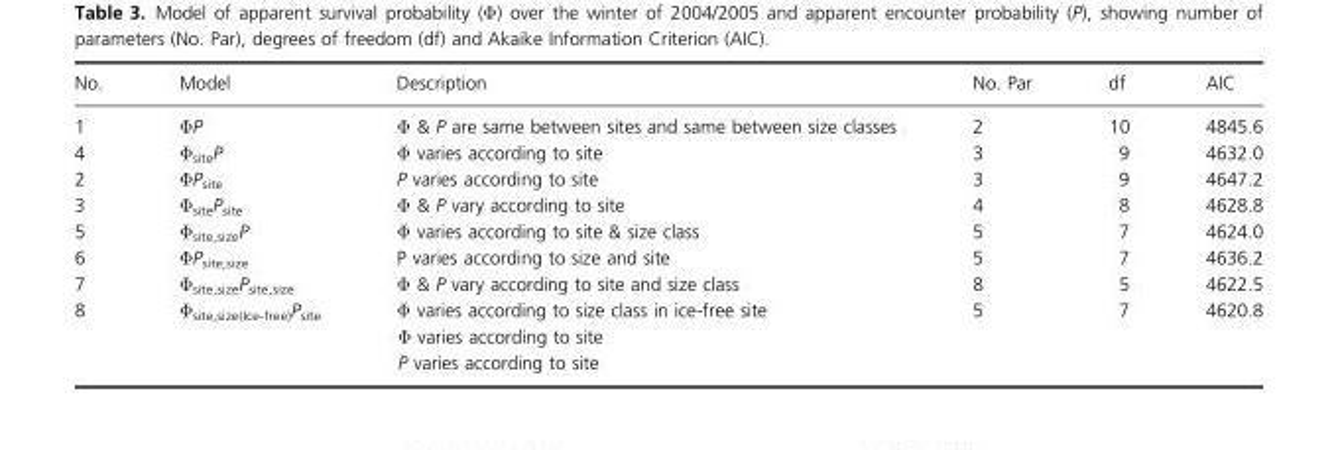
<table><thead><tr><td>No.</td><td>Model</td><td>Description</td><td>No. Par</td><td>df</td><td>AIC</td></tr></thead><tbody><tr><td>1</td><td>ΦP</td><td>Φ &amp; P are same between sites and same between size classes</td><td>2</td><td>10</td><td>4845.6</td></tr><tr><td>4</td><td>Φ<sub>site</sub>P</td><td>Φ varies according to site</td><td>3</td><td>9</td><td>4632.0</td></tr><tr><td>2</td><td>ΦP<sub>site</sub></td><td>P varies according to site</td><td>3</td><td>9</td><td>4647.2</td></tr><tr><td>3</td><td>Φ<sub>site</sub>P<sub>site</sub></td><td>Φ &amp; P vary according to site</td><td>4</td><td>8</td><td>4628.8</td></tr><tr><td>5</td><td>Φ<sub>site,size</sub>P</td><td>Φ varies according to site &amp; size class</td><td>5</td><td>7</td><td>4624.0</td></tr><tr><td>6</td><td>ΦP<sub>site,size</sub></td><td>P varies according to size and site</td><td>5</td><td>7</td><td>4636.2</td></tr><tr><td>7</td><td>Φ<sub>site,size</sub>P<sub>site,size</sub></td><td>Φ &amp; P vary according to site and size class</td><td>8</td><td>5</td><td>4622.5</td></tr><tr><td rowspan="3">8</td><td>Φ<sub>site,size(Ice-free)</sub>P<sub>site</sub></td><td>Φ varies according to size class in ice-free site</td><td>5</td><td>7</td><td>4620.8</td></tr><tr><td></td><td>Φ varies according to site</td><td></td><td></td><td></td></tr><tr><td></td><td>P varies according to site</td><td></td><td></td><td></td></tr></tbody></table>